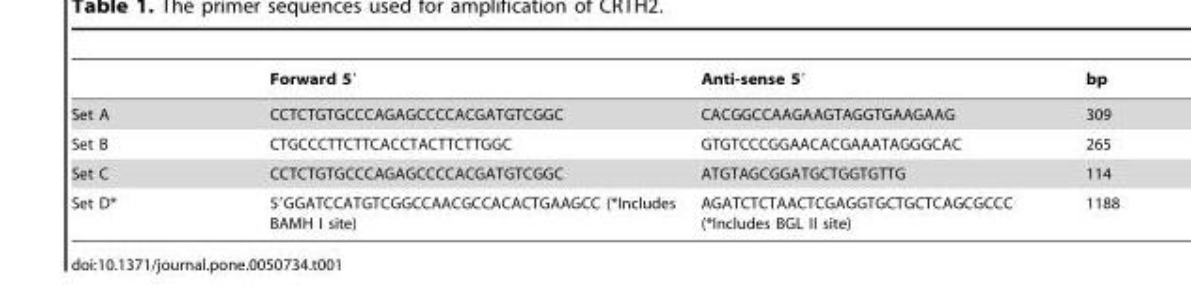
<table><thead><tr><td></td><td>Forward 5′</td><td>Anti-sense 5′</td><td>bp</td></tr></thead><tbody><tr><td>Set A</td><td>CCTCTGTGCCCAGAGCCCCACGATGTCGGC</td><td>CACGGCCAAGAAGTAGGTGAAGAAG</td><td>309</td></tr><tr><td>Set B</td><td>CTGCCCTTCTTCACCTACTTCTTGGC</td><td>GTGTCCCGGAACACGAAATAGGGCAC</td><td>265</td></tr><tr><td>Set C</td><td>CCTCTGTGCCCAGAGCCCCACGATGTCGGC</td><td>ATGTAGCGGATGCTGGTGTTG</td><td>114</td></tr><tr><td>Set D*</td><td>5′GGATCCATGTCGGCCAACGCCACACTGAAGCC (*Includes BAMH I site)</td><td>AGATCTCTAACTCGAGGTGCTGCTCAGCGCCC (*Includes BGL II site)</td><td>1188</td></tr></tbody></table>